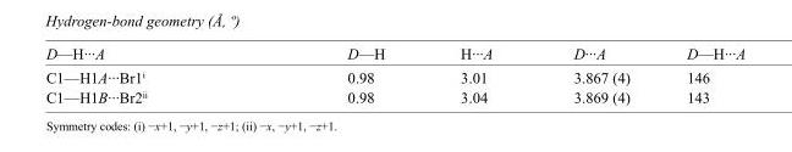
<table><tbody><tr><td>D—H···A</td><td>D—H</td><td>H···A</td><td>D···A</td><td>D—H···A</td></tr><tr><td>C1—H1A···Br1<sup>i</sup></td><td>0.98</td><td>3.01</td><td>3.867 (4)</td><td>146</td></tr><tr><td>C1—H1B···Br2<sup>ii</sup></td><td>0.98</td><td>3.04</td><td>3.869 (4)</td><td>143</td></tr></tbody></table>